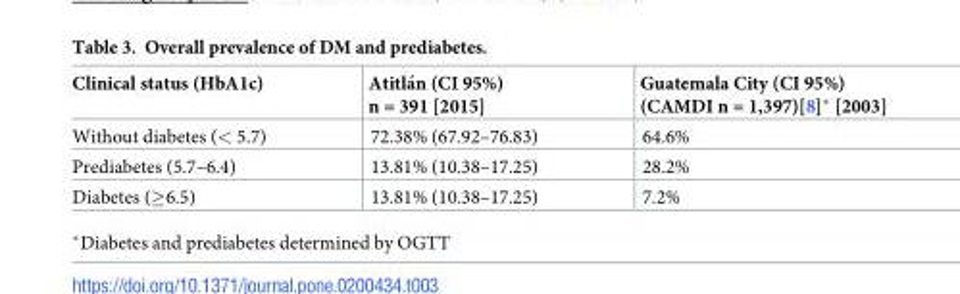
<table><thead><tr><td>Clinical status (HbA1c)</td><td>Atitla´n (CI 95%) n = 391 [2015]</td><td>Guatemala City (CI 95%) (CAMDI n = 1,397)[8]* [2003]</td></tr></thead><tbody><tr><td>Without diabetes (&lt; 5.7)</td><td>72.38% (67.92–76.83)</td><td>64.6%</td></tr><tr><td>Prediabetes (5.7–6.4)</td><td>13.81% (10.38–17.25)</td><td>28.2%</td></tr><tr><td>Diabetes (≥6.5)</td><td>13.81% (10.38–17.25)</td><td>7.2%</td></tr></tbody></table>